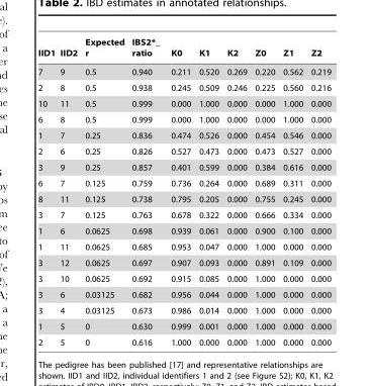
<table><thead><tr><td>IID1</td><td>IID2</td><td>Expected r</td><td>IBS2*_ ratio</td><td>K0</td><td>K1</td><td>K2</td><td>Z0</td><td>Z1</td><td>Z2</td></tr></thead><tbody><tr><td>7</td><td>9</td><td>0.5</td><td>0.940</td><td>0.211</td><td>0.520</td><td>0.269</td><td>0.220</td><td>0.562</td><td>0.219</td></tr><tr><td>2</td><td>8</td><td>0.5</td><td>0.938</td><td>0.245</td><td>0.509</td><td>0.246</td><td>0.225</td><td>0.560</td><td>0.216</td></tr><tr><td>10</td><td>11</td><td>0.5</td><td>0.999</td><td>0.000</td><td>1.000</td><td>0.000</td><td>0.000</td><td>1.000</td><td>0.000</td></tr><tr><td>6</td><td>8</td><td>0.5</td><td>0.999</td><td>0.000</td><td>1.000</td><td>0.000</td><td>0.000</td><td>1.000</td><td>0.000</td></tr><tr><td>1</td><td>7</td><td>0.25</td><td>0.836</td><td>0.474</td><td>0.526</td><td>0.000</td><td>0.454</td><td>0.546</td><td>0.000</td></tr><tr><td>2</td><td>6</td><td>0.25</td><td>0.826</td><td>0.527</td><td>0.473</td><td>0.000</td><td>0.473</td><td>0.527</td><td>0.000</td></tr><tr><td>3</td><td>9</td><td>0.25</td><td>0.857</td><td>0.401</td><td>0.599</td><td>0.000</td><td>0.384</td><td>0.616</td><td>0.000</td></tr><tr><td>6</td><td>7</td><td>0.125</td><td>0.759</td><td>0.736</td><td>0.264</td><td>0.000</td><td>0.689</td><td>0.311</td><td>0.000</td></tr><tr><td>8</td><td>11</td><td>0.125</td><td>0.738</td><td>0.795</td><td>0.205</td><td>0.000</td><td>0.755</td><td>0.245</td><td>0.000</td></tr><tr><td>3</td><td>7</td><td>0.125</td><td>0.763</td><td>0.678</td><td>0.322</td><td>0.000</td><td>0.666</td><td>0.334</td><td>0.000</td></tr><tr><td>1</td><td>6</td><td>0.0625</td><td>0.698</td><td>0.939</td><td>0.061</td><td>0.000</td><td>0.900</td><td>0.100</td><td>0.000</td></tr><tr><td>1</td><td>11</td><td>0.0625</td><td>0.685</td><td>0.953</td><td>0.047</td><td>0.000</td><td>1.000</td><td>0.000</td><td>0.000</td></tr><tr><td>3</td><td>12</td><td>0.0625</td><td>0.697</td><td>0.907</td><td>0.093</td><td>0.000</td><td>0.891</td><td>0.109</td><td>0.000</td></tr><tr><td>3</td><td>10</td><td>0.0625</td><td>0.692</td><td>0.915</td><td>0.085</td><td>0.000</td><td>1.000</td><td>0.000</td><td>0.000</td></tr><tr><td>3</td><td>6</td><td>0.03125</td><td>0.682</td><td>0.956</td><td>0.044</td><td>0.000</td><td>1.000</td><td>0.000</td><td>0.000</td></tr><tr><td>3</td><td>4</td><td>0.03125</td><td>0.673</td><td>0.986</td><td>0.014</td><td>0.000</td><td>1.000</td><td>0.000</td><td>0.000</td></tr><tr><td>1</td><td>5</td><td>0</td><td>0.630</td><td>0.999</td><td>0.001</td><td>0.000</td><td>1.000</td><td>0.000</td><td>0.000</td></tr><tr><td>2</td><td>5</td><td>0</td><td>0.616</td><td>1.000</td><td>0.000</td><td>0.000</td><td>1.000</td><td>0.000</td><td>0.000</td></tr></tbody></table>